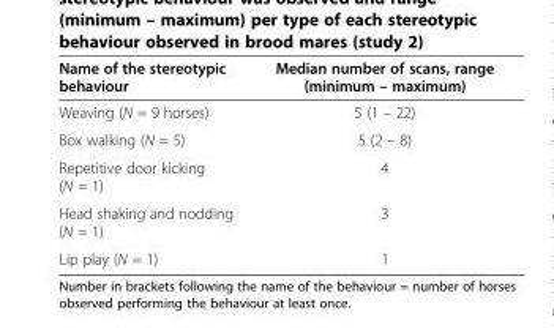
<table><thead><tr><td>Name of the stereotypic behaviour</td><td>Median number of scans, range (minimum – maximum)</td></tr></thead><tbody><tr><td>Weaving (N = 9 horses)</td><td>5 (1 – 22)</td></tr><tr><td>Box walking (N = 5)</td><td>5 (2 – 8)</td></tr><tr><td>Repetitive door kicking (N = 1)</td><td>4</td></tr><tr><td>Head shaking and nodding (N = 1)</td><td>3</td></tr><tr><td>Lip play (N = 1)</td><td>1</td></tr></tbody></table>